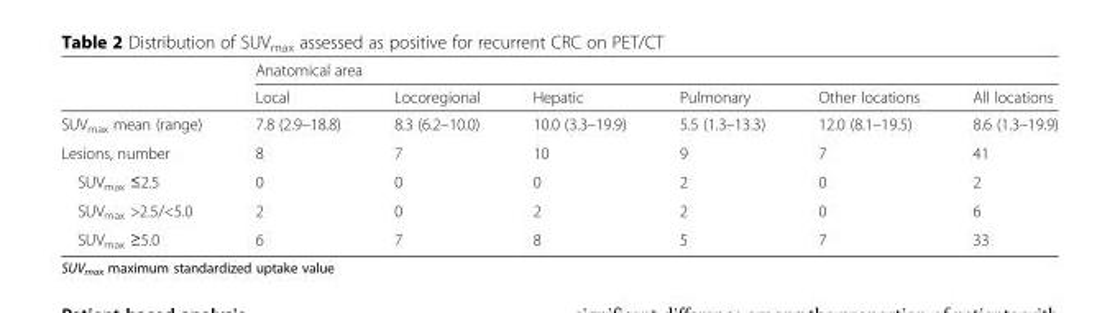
<table><thead><tr><td rowspan="2"></td><td colspan="6">Anatomical area</td></tr><tr><td>Local</td><td>Locoregional</td><td>Hepatic</td><td>Pulmonary</td><td>Other locations</td><td>All locations</td></tr></thead><tbody><tr><td>SUV<sub>max</sub> mean (range)</td><td>7.8 (2.9–18.8)</td><td>8.3 (6.2–10.0)</td><td>10.0 (3.3–19.9)</td><td>5.5 (1.3–13.3)</td><td>12.0 (8.1–19.5)</td><td>8.6 (1.3–19.9)</td></tr><tr><td>Lesions, number</td><td>8</td><td>7</td><td>10</td><td>9</td><td>7</td><td>41</td></tr><tr><td>SUV<sub>max</sub> ≤2.5</td><td>0</td><td>0</td><td>0</td><td>2</td><td>0</td><td>2</td></tr><tr><td>SUV<sub>max</sub> &gt;2.5/&lt;5.0</td><td>2</td><td>0</td><td>2</td><td>2</td><td>0</td><td>6</td></tr><tr><td>SUV<sub>max</sub> ≥5.0</td><td>6</td><td>7</td><td>8</td><td>5</td><td>7</td><td>33</td></tr></tbody></table>